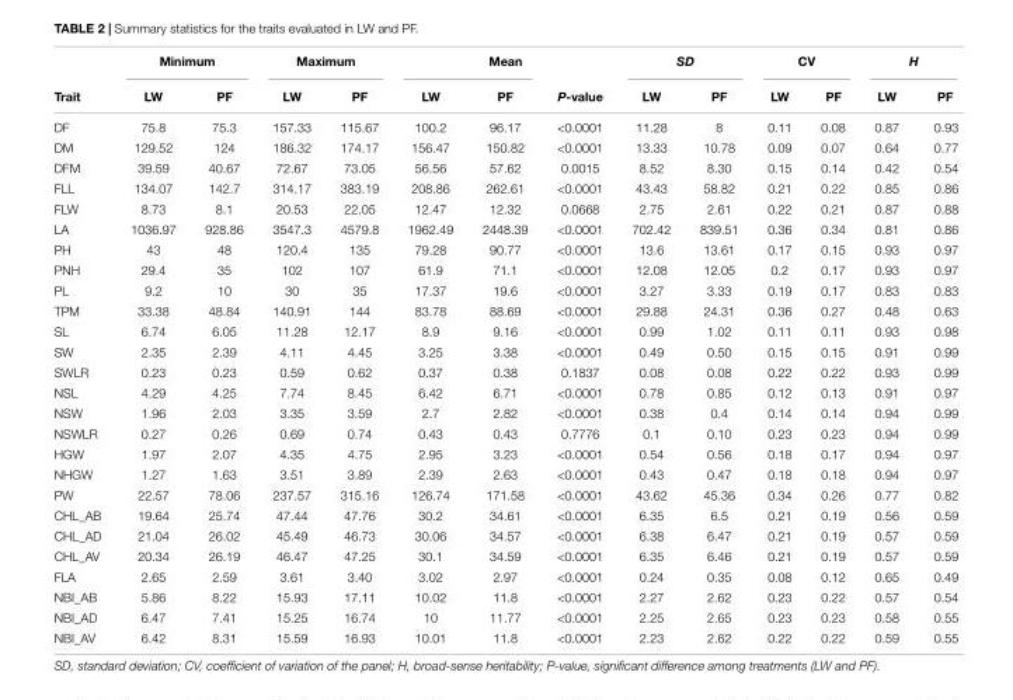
<table><thead><tr><td rowspan="2">Trait</td><td colspan="2">Minimum</td><td colspan="2">Maximum</td><td colspan="2">Mean</td><td rowspan="2">P-value</td><td colspan="2">SD</td><td colspan="2">CV</td><td colspan="2">H</td></tr><tr><td>LW</td><td>PF</td><td>LW</td><td>PF</td><td>LW</td><td>PF</td><td>LW</td><td>PF</td><td>LW</td><td>PF</td><td>LW</td><td>PF</td></tr></thead><tbody><tr><td>DF</td><td>75.8</td><td>75.3</td><td>157.33</td><td>115.67</td><td>100.2</td><td>96.17</td><td>&lt;0.0001</td><td>11.28</td><td>8</td><td>0.11</td><td>0.08</td><td>0.87</td><td>0.93</td></tr><tr><td>DM</td><td>129.52</td><td>124</td><td>186.32</td><td>174.17</td><td>156.47</td><td>150.82</td><td>&lt;0.0001</td><td>13.33</td><td>10.78</td><td>0.09</td><td>0.07</td><td>0.64</td><td>0.77</td></tr><tr><td>DFM</td><td>39.59</td><td>40.67</td><td>72.67</td><td>73.05</td><td>56.56</td><td>57.62</td><td>0.0015</td><td>8.52</td><td>8.30</td><td>0.15</td><td>0.14</td><td>0.42</td><td>0.54</td></tr><tr><td>FLL</td><td>134.07</td><td>142.7</td><td>314.17</td><td>383.19</td><td>208.86</td><td>262.61</td><td>&lt;0.0001</td><td>43.43</td><td>58.82</td><td>0.21</td><td>0.22</td><td>0.85</td><td>0.86</td></tr><tr><td>FLW</td><td>8.73</td><td>8.1</td><td>20.53</td><td>22.05</td><td>12.47</td><td>12.32</td><td>0.0668</td><td>2.75</td><td>2.61</td><td>0.22</td><td>0.21</td><td>0.87</td><td>0.88</td></tr><tr><td>LA</td><td>1036.97</td><td>928.86</td><td>3547.3</td><td>4579.8</td><td>1962.49</td><td>2448.39</td><td>&lt;0.0001</td><td>702.42</td><td>839.51</td><td>0.36</td><td>0.34</td><td>0.81</td><td>0.86</td></tr><tr><td>PH</td><td>43</td><td>48</td><td>120.4</td><td>135</td><td>79.28</td><td>90.77</td><td>&lt;0.0001</td><td>13.6</td><td>13.61</td><td>0.17</td><td>0.15</td><td>0.93</td><td>0.97</td></tr><tr><td>PNH</td><td>29.4</td><td>35</td><td>102</td><td>107</td><td>61.9</td><td>71.1</td><td>&lt;0.0001</td><td>12.08</td><td>12.05</td><td>0.2</td><td>0.17</td><td>0.93</td><td>0.97</td></tr><tr><td>PL</td><td>9.2</td><td>10</td><td>30</td><td>35</td><td>17.37</td><td>19.6</td><td>&lt;0.0001</td><td>3.27</td><td>3.33</td><td>0.19</td><td>0.17</td><td>0.83</td><td>0.83</td></tr><tr><td>TPM</td><td>33.38</td><td>48.84</td><td>140.91</td><td>144</td><td>83.78</td><td>88.69</td><td>&lt;0.0001</td><td>29.88</td><td>24.31</td><td>0.36</td><td>0.27</td><td>0.48</td><td>0.63</td></tr><tr><td>SL</td><td>6.74</td><td>6.05</td><td>11.28</td><td>12.17</td><td>8.9</td><td>9.16</td><td>&lt;0.0001</td><td>0.99</td><td>1.02</td><td>0.11</td><td>0.11</td><td>0.93</td><td>0.98</td></tr><tr><td>SW</td><td>2.35</td><td>2.39</td><td>4.11</td><td>4.45</td><td>3.25</td><td>3.38</td><td>&lt;0.0001</td><td>0.49</td><td>0.50</td><td>0.15</td><td>0.15</td><td>0.91</td><td>0.99</td></tr><tr><td>SWLR</td><td>0.23</td><td>0.23</td><td>0.59</td><td>0.62</td><td>0.37</td><td>0.38</td><td>0.1837</td><td>0.08</td><td>0.08</td><td>0.22</td><td>0.22</td><td>0.93</td><td>0.99</td></tr><tr><td>NSL</td><td>4.29</td><td>4.25</td><td>7.74</td><td>8.45</td><td>6.42</td><td>6.71</td><td>&lt;0.0001</td><td>0.78</td><td>0.85</td><td>0.12</td><td>0.13</td><td>0.91</td><td>0.97</td></tr><tr><td>NSW</td><td>1.96</td><td>2.03</td><td>3.35</td><td>3.59</td><td>2.7</td><td>2.82</td><td>&lt;0.0001</td><td>0.38</td><td>0.4</td><td>0.14</td><td>0.14</td><td>0.94</td><td>0.99</td></tr><tr><td>NSWLR</td><td>0.27</td><td>0.26</td><td>0.69</td><td>0.74</td><td>0.43</td><td>0.43</td><td>0.7776</td><td>0.1</td><td>0.10</td><td>0.23</td><td>0.23</td><td>0.94</td><td>0.99</td></tr><tr><td>HGW</td><td>1.97</td><td>2.07</td><td>4.35</td><td>4.75</td><td>2.95</td><td>3.23</td><td>&lt;0.0001</td><td>0.54</td><td>0.56</td><td>0.18</td><td>0.17</td><td>0.94</td><td>0.97</td></tr><tr><td>NHGW</td><td>1.27</td><td>1.63</td><td>3.51</td><td>3.89</td><td>2.39</td><td>2.63</td><td>&lt;0.0001</td><td>0.43</td><td>0.47</td><td>0.18</td><td>0.18</td><td>0.94</td><td>0.97</td></tr><tr><td>PW</td><td>22.57</td><td>78.06</td><td>237.57</td><td>315.16</td><td>126.74</td><td>171.58</td><td>&lt;0.0001</td><td>43.62</td><td>45.36</td><td>0.34</td><td>0.26</td><td>0.77</td><td>0.82</td></tr><tr><td>CHL_AB</td><td>19.64</td><td>25.74</td><td>47.44</td><td>47.76</td><td>30.2</td><td>34.61</td><td>&lt;0.0001</td><td>6.35</td><td>6.5</td><td>0.21</td><td>0.19</td><td>0.56</td><td>0.59</td></tr><tr><td>CHL_AD</td><td>21.04</td><td>26.02</td><td>45.49</td><td>46.73</td><td>30.06</td><td>34.57</td><td>&lt;0.0001</td><td>6.38</td><td>6.47</td><td>0.21</td><td>0.19</td><td>0.57</td><td>0.59</td></tr><tr><td>CHL_AV</td><td>20.34</td><td>26.19</td><td>46.47</td><td>47.25</td><td>30.1</td><td>34.59</td><td>&lt;0.0001</td><td>6.35</td><td>6.46</td><td>0.21</td><td>0.19</td><td>0.57</td><td>0.59</td></tr><tr><td>FLA</td><td>2.65</td><td>2.59</td><td>3.61</td><td>3.40</td><td>3.02</td><td>2.97</td><td>&lt;0.0001</td><td>0.24</td><td>0.35</td><td>0.08</td><td>0.12</td><td>0.65</td><td>0.49</td></tr><tr><td>NBI_AB</td><td>5.86</td><td>8.22</td><td>15.93</td><td>17.11</td><td>10.02</td><td>11.8</td><td>&lt;0.0001</td><td>2.27</td><td>2.62</td><td>0.23</td><td>0.22</td><td>0.57</td><td>0.54</td></tr><tr><td>NBI_AD</td><td>6.47</td><td>7.41</td><td>15.25</td><td>16.74</td><td>10</td><td>11.77</td><td>&lt;0.0001</td><td>2.25</td><td>2.65</td><td>0.23</td><td>0.23</td><td>0.58</td><td>0.55</td></tr><tr><td>NBI_AV</td><td>6.42</td><td>8.31</td><td>15.59</td><td>16.93</td><td>10.01</td><td>11.8</td><td>&lt;0.0001</td><td>2.23</td><td>2.62</td><td>0.22</td><td>0.22</td><td>0.59</td><td>0.55</td></tr></tbody></table>